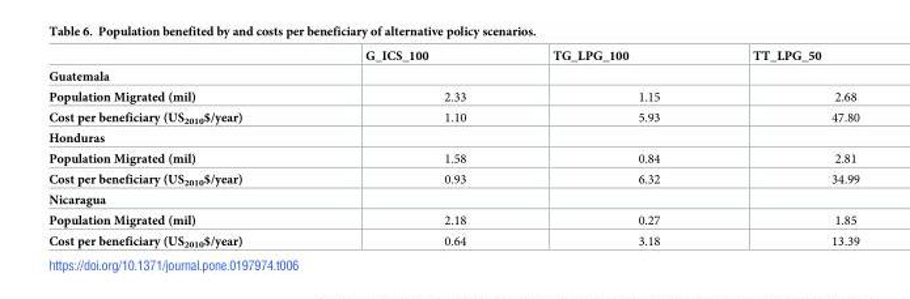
<table><thead><tr><td></td><td>G_ICS_100</td><td>TG_LPG_100</td><td>TT_LPG_50</td></tr></thead><tbody><tr><td colspan="4">Guatemala</td></tr><tr><td>Population Migrated (mil)</td><td>2.33</td><td>1.15</td><td>2.68</td></tr><tr><td>Cost per beneficiary (US<sub>2010</sub>$/year)</td><td>1.10</td><td>5.93</td><td>47.80</td></tr><tr><td colspan="4">Honduras</td></tr><tr><td>Population Migrated (mil)</td><td>1.58</td><td>0.84</td><td>2.81</td></tr><tr><td>Cost per beneficiary (US<sub>2010</sub>$/year)</td><td>0.93</td><td>6.32</td><td>34.99</td></tr><tr><td colspan="4">Nicaragua</td></tr><tr><td>Population Migrated (mil)</td><td>2.18</td><td>0.27</td><td>1.85</td></tr><tr><td>Cost per beneficiary (US<sub>2010</sub>$/year)</td><td>0.64</td><td>3.18</td><td>13.39</td></tr></tbody></table>